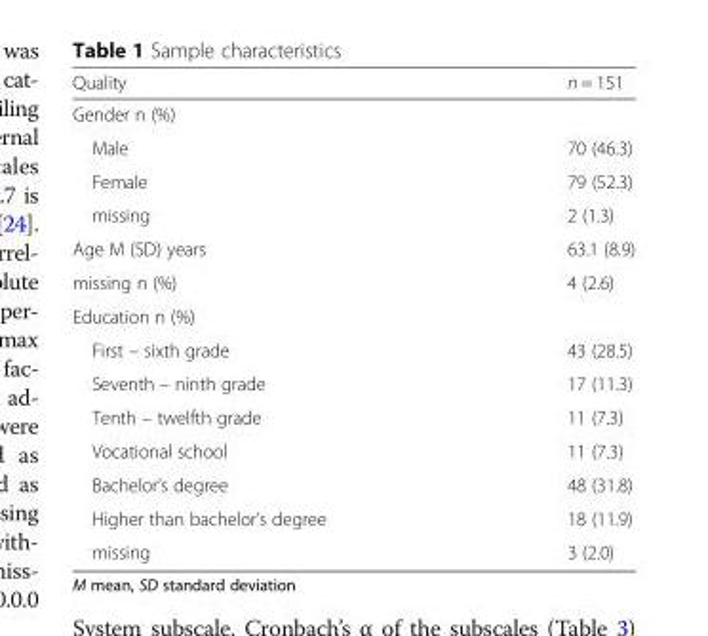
<table><thead><tr><td>Quality</td><td>n = 151</td></tr></thead><tbody><tr><td colspan="2">Gender n (%)</td></tr><tr><td>Male</td><td>70 (46.3)</td></tr><tr><td>Female</td><td>79 (52.3)</td></tr><tr><td>missing</td><td>2 (1.3)</td></tr><tr><td>Age M (SD) years</td><td>63.1 (8.9)</td></tr><tr><td>missing n (%)</td><td>4 (2.6)</td></tr><tr><td colspan="2">Education n (%)</td></tr><tr><td>First – sixth grade</td><td>43 (28.5)</td></tr><tr><td>Seventh – ninth grade</td><td>17 (11.3)</td></tr><tr><td>Tenth – twelfth grade</td><td>11 (7.3)</td></tr><tr><td>Vocational school</td><td>11 (7.3)</td></tr><tr><td>Bachelor’s degree</td><td>48 (31.8)</td></tr><tr><td>Higher than bachelor’s degree</td><td>18 (11.9)</td></tr><tr><td>missing</td><td>3 (2.0)</td></tr></tbody></table>